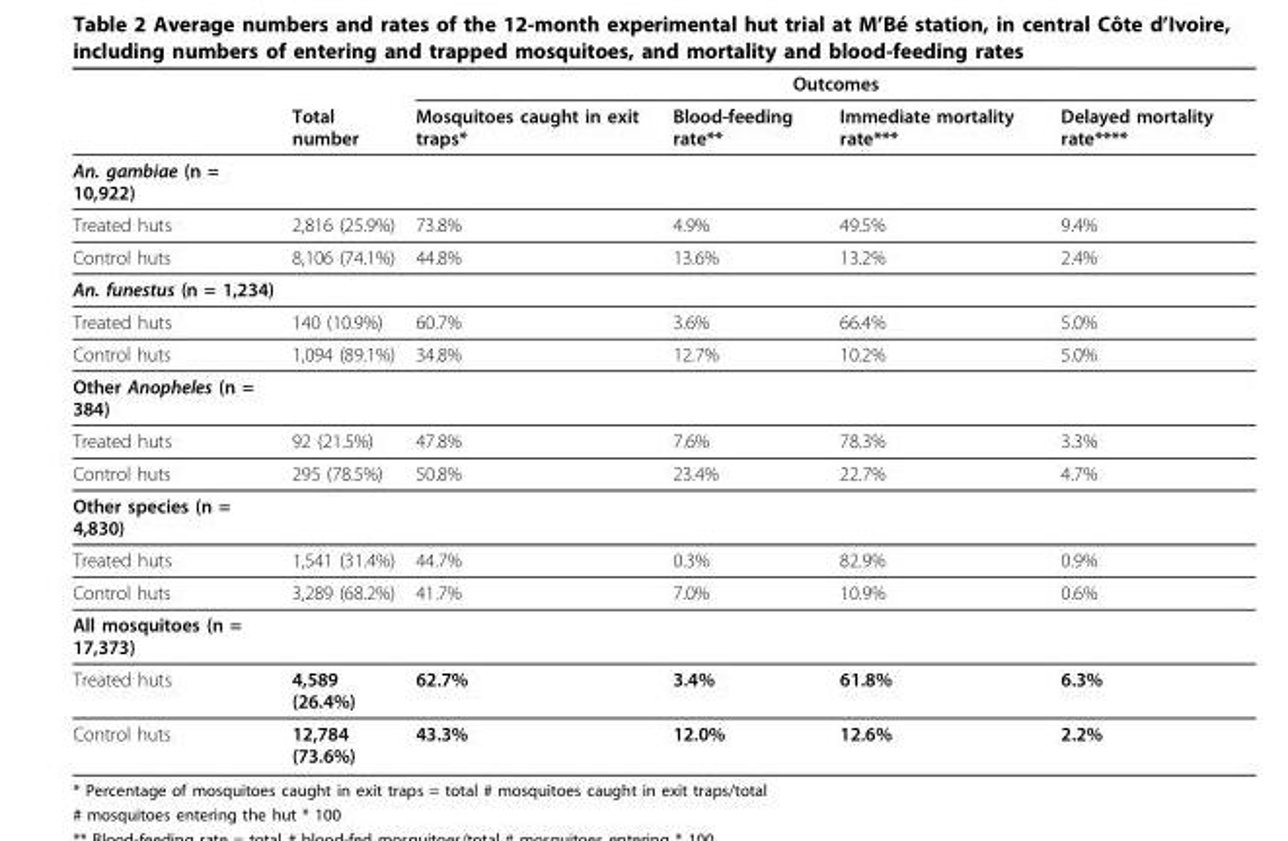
<table><thead><tr><td rowspan="2"></td><td rowspan="2">Total number</td><td colspan="4">Outcomes</td></tr><tr><td>Mosquitoes caught in exit traps*</td><td>Blood-feeding rate**</td><td>Immediate mortality rate***</td><td>Delayed mortality rate****</td></tr></thead><tbody><tr><td colspan="6">An. gambiae (n = 10,922)</td></tr><tr><td>Treated huts</td><td>2,816 (25.9%)</td><td>73.8%</td><td>4.9%</td><td>49.5%</td><td>9.4%</td></tr><tr><td>Control huts</td><td>8,106 (74.1%)</td><td>44.8%</td><td>13.6%</td><td>13.2%</td><td>2.4%</td></tr><tr><td colspan="6">An. funestus (n = 1,234)</td></tr><tr><td>Treated huts</td><td>140 (10.9%)</td><td>60.7%</td><td>3.6%</td><td>66.4%</td><td>5.0%</td></tr><tr><td>Control huts</td><td>1,094 (89.1%)</td><td>34.8%</td><td>12.7%</td><td>10.2%</td><td>5.0%</td></tr><tr><td colspan="6">Other Anopheles (n = 384)</td></tr><tr><td>Treated huts</td><td>92 (21.5%)</td><td>47.8%</td><td>7.6%</td><td>78.3%</td><td>3.3%</td></tr><tr><td>Control huts</td><td>295 (78.5%)</td><td>50.8%</td><td>23.4%</td><td>22.7%</td><td>4.7%</td></tr><tr><td colspan="6">Other species (n = 4,830)</td></tr><tr><td>Treated huts</td><td>1,541 (31.4%)</td><td>44.7%</td><td>0.3%</td><td>82.9%</td><td>0.9%</td></tr><tr><td>Control huts</td><td>3,289 (68.2%)</td><td>41.7%</td><td>7.0%</td><td>10.9%</td><td>0.6%</td></tr><tr><td colspan="6">All mosquitoes (n = 17,373)</td></tr><tr><td>Treated huts</td><td>4,589 (26.4%)</td><td>62.7%</td><td>3.4%</td><td>61.8%</td><td>6.3%</td></tr><tr><td>Control huts</td><td>12,784 (73.6%)</td><td>43.3%</td><td>12.0%</td><td>12.6%</td><td>2.2%</td></tr></tbody></table>